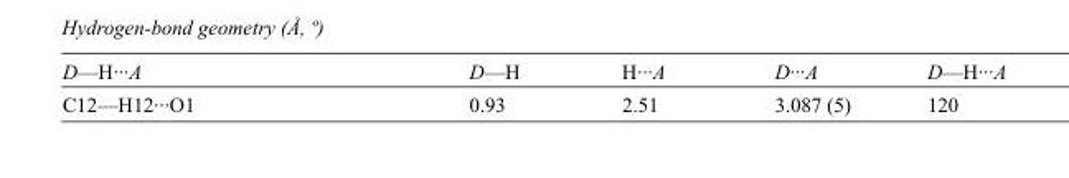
<table><tbody><tr><td>D—H···A</td><td>D—H</td><td>H···A</td><td>D···A</td><td>D—H···A</td></tr><tr><td>C12—H12···O1</td><td>0.93</td><td>2.51</td><td>3.087 (5)</td><td>120</td></tr></tbody></table>